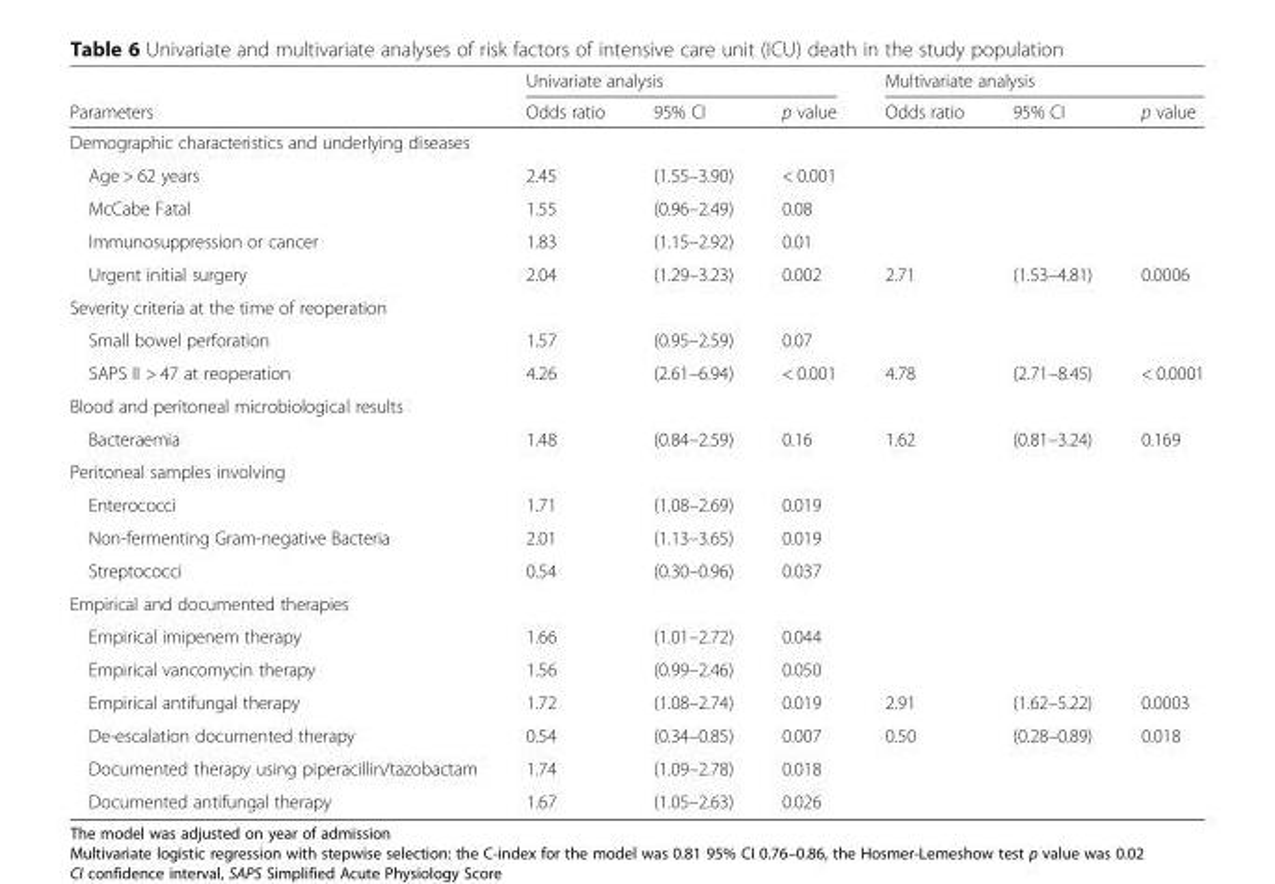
<table><thead><tr><td rowspan="2">Parameters</td><td colspan="3">Univariate analysis</td><td colspan="3">Multivariate analysis</td></tr><tr><td>Odds ratio</td><td>95% CI</td><td>p value</td><td>Odds ratio</td><td>95% CI</td><td>p value</td></tr></thead><tbody><tr><td colspan="7">Demographic characteristics and underlying diseases</td></tr><tr><td>Age &gt; 62 years</td><td>2.45</td><td>(1.55–3.90)</td><td>&lt; 0.001</td><td></td><td></td><td rowspan="3"></td></tr><tr><td>McCabe Fatal</td><td>1.55</td><td>(0.96–2.49)</td><td>0.08</td><td></td><td></td></tr><tr><td>Immunosuppression or cancer</td><td>1.83</td><td>(1.15–2.92)</td><td>0.01</td><td></td><td></td></tr><tr><td>Urgent initial surgery</td><td>2.04</td><td>(1.29–3.23)</td><td>0.002</td><td>2.71</td><td>(1.53–4.81)</td><td>0.0006</td></tr><tr><td colspan="7">Severity criteria at the time of reoperation</td></tr><tr><td>Small bowel perforation</td><td>1.57</td><td>(0.95–2.59)</td><td>0.07</td><td></td><td></td><td></td></tr><tr><td>SAPS II &gt; 47 at reoperation</td><td>4.26</td><td>(2.61–6.94)</td><td>&lt; 0.001</td><td>4.78</td><td>(2.71–8.45)</td><td>&lt; 0.0001</td></tr><tr><td colspan="7">Blood and peritoneal microbiological results</td></tr><tr><td>Bacteraemia</td><td>1.48</td><td>(0.84–2.59)</td><td>0.16</td><td>1.62</td><td>(0.81–3.24)</td><td>0.169</td></tr><tr><td colspan="7">Peritoneal samples involving</td></tr><tr><td>Enterococci</td><td>1.71</td><td>(1.08–2.69)</td><td>0.019</td><td></td><td></td><td rowspan="3"></td></tr><tr><td>Non-fermenting Gram-negative Bacteria</td><td>2.01</td><td>(1.13–3.65)</td><td>0.019</td><td></td><td></td></tr><tr><td>Streptococci</td><td>0.54</td><td>(0.30–0.96)</td><td>0.037</td><td></td><td></td></tr><tr><td colspan="7">Empirical and documented therapies</td></tr><tr><td>Empirical imipenem therapy</td><td>1.66</td><td>(1.01–2.72)</td><td>0.044</td><td></td><td></td><td rowspan="2"></td></tr><tr><td>Empirical vancomycin therapy</td><td>1.56</td><td>(0.99–2.46)</td><td>0.050</td><td></td><td></td></tr><tr><td>Empirical antifungal therapy</td><td>1.72</td><td>(1.08–2.74)</td><td>0.019</td><td>2.91</td><td>(1.62–5.22)</td><td>0.0003</td></tr><tr><td>De-escalation documented therapy</td><td>0.54</td><td>(0.34–0.85)</td><td>0.007</td><td>0.50</td><td>(0.28–0.89)</td><td>0.018</td></tr><tr><td>Documented therapy using piperacillin/tazobactam</td><td>1.74</td><td>(1.09–2.78)</td><td>0.018</td><td></td><td></td><td rowspan="2"></td></tr><tr><td>Documented antifungal therapy</td><td>1.67</td><td>(1.05–2.63)</td><td>0.026</td><td></td><td></td></tr></tbody></table>